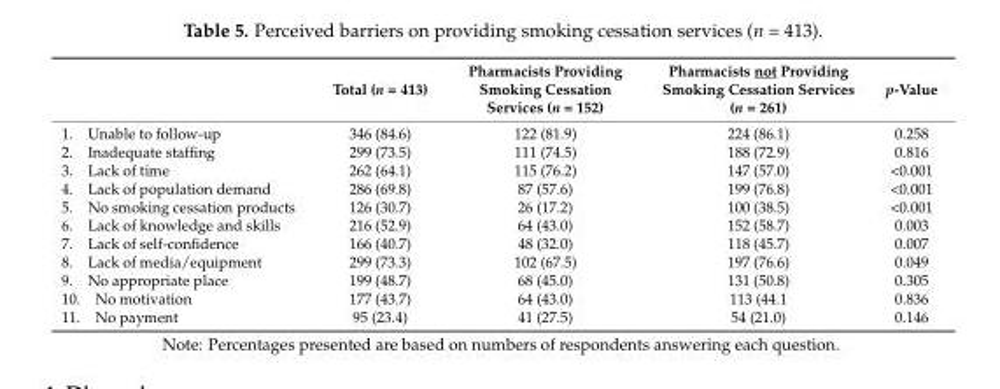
<table><thead><tr><td></td><td>Total (n = 413)</td><td>Pharmacists Providing Smoking Cessation Services (n = 152)</td><td>Pharmacists not Providing Smoking Cessation Services (n = 261)</td><td>p-Value</td></tr></thead><tbody><tr><td>1. Unable to follow-up</td><td>346 (84.6)</td><td>122 (81.9)</td><td>224 (86.1)</td><td>0.258</td></tr><tr><td>2. Inadequate staffing</td><td>299 (73.5)</td><td>111 (74.5)</td><td>188 (72.9)</td><td>0.816</td></tr><tr><td>3. Lack of time</td><td>262 (64.1)</td><td>115 (76.2)</td><td>147 (57.0)</td><td>&lt;0.001</td></tr><tr><td>4. Lack of population demand</td><td>286 (69.8)</td><td>87 (57.6)</td><td>199 (76.8)</td><td>&lt;0.001</td></tr><tr><td>5. No smoking cessation products</td><td>126 (30.7)</td><td>26 (17.2)</td><td>100 (38.5)</td><td>&lt;0.001</td></tr><tr><td>6. Lack of knowledge and skills</td><td>216 (52.9)</td><td>64 (43.0)</td><td>152 (58.7)</td><td>0.003</td></tr><tr><td>7. Lack of self-confidence</td><td>166 (40.7)</td><td>48 (32.0)</td><td>118 (45.7)</td><td>0.007</td></tr><tr><td>8. Lack of media/equipment</td><td>299 (73.3)</td><td>102 (67.5)</td><td>197 (76.6)</td><td>0.049</td></tr><tr><td>9. No appropriate place</td><td>199 (48.7)</td><td>68 (45.0)</td><td>131 (50.8)</td><td>0.305</td></tr><tr><td>10. No motivation</td><td>177 (43.7)</td><td>64 (43.0)</td><td>113 (44.1</td><td>0.836</td></tr><tr><td>11. No payment</td><td>95 (23.4)</td><td>41 (27.5)</td><td>54 (21.0)</td><td>0.146</td></tr></tbody></table>